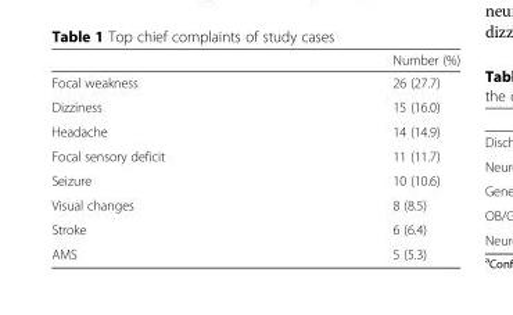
<table><thead><tr><td></td><td>Number (%)</td></tr></thead><tbody><tr><td>Focal weakness</td><td>26 (27.7)</td></tr><tr><td>Dizziness</td><td>15 (16.0)</td></tr><tr><td>Headache</td><td>14 (14.9)</td></tr><tr><td>Focal sensory deficit</td><td>11 (11.7)</td></tr><tr><td>Seizure</td><td>10 (10.6)</td></tr><tr><td>Visual changes</td><td>8 (8.5)</td></tr><tr><td>Stroke</td><td>6 (6.4)</td></tr><tr><td>AMS</td><td>5 (5.3)</td></tr></tbody></table>